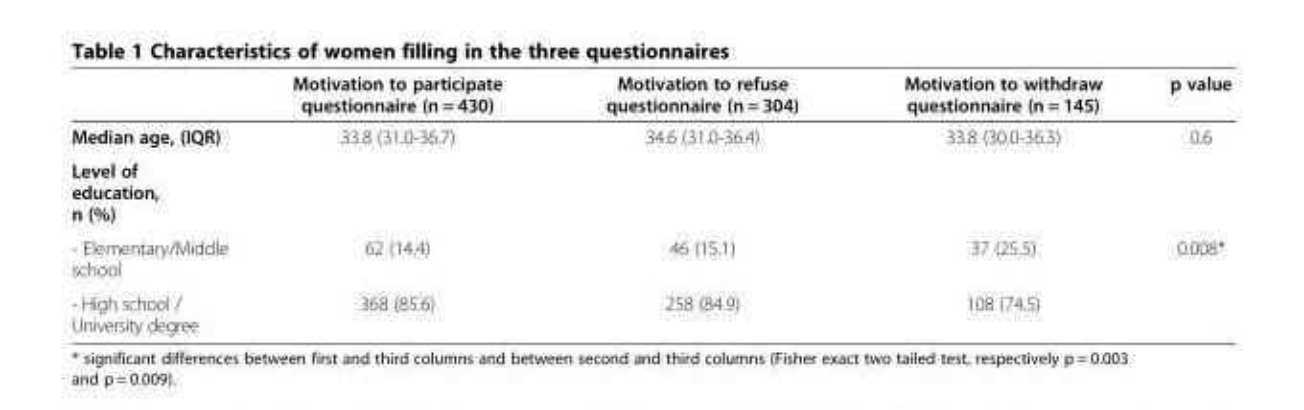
<table><thead><tr><td></td><td>Motivation to participate questionnaire (n = 430)</td><td>Motivation to refuse questionnaire (n = 304)</td><td>Motivation to withdraw questionnaire (n = 145)</td><td>p value</td></tr></thead><tbody><tr><td>Median age, (IQR)</td><td>33.8 (31.0-36.7)</td><td>34.6 (31.0-36.4)</td><td>33.8 (30.0-36.3)</td><td>0.6</td></tr><tr><td colspan="5">Level of education, n (%)</td></tr><tr><td>- Elementary/Middle school</td><td>62 (14.4)</td><td>46 (15.1)</td><td>37 (25.5)</td><td>0.008*</td></tr><tr><td>- High school / University degree</td><td>368 (85.6)</td><td>258 (84.9)</td><td>108 (74.5)</td><td></td></tr></tbody></table>